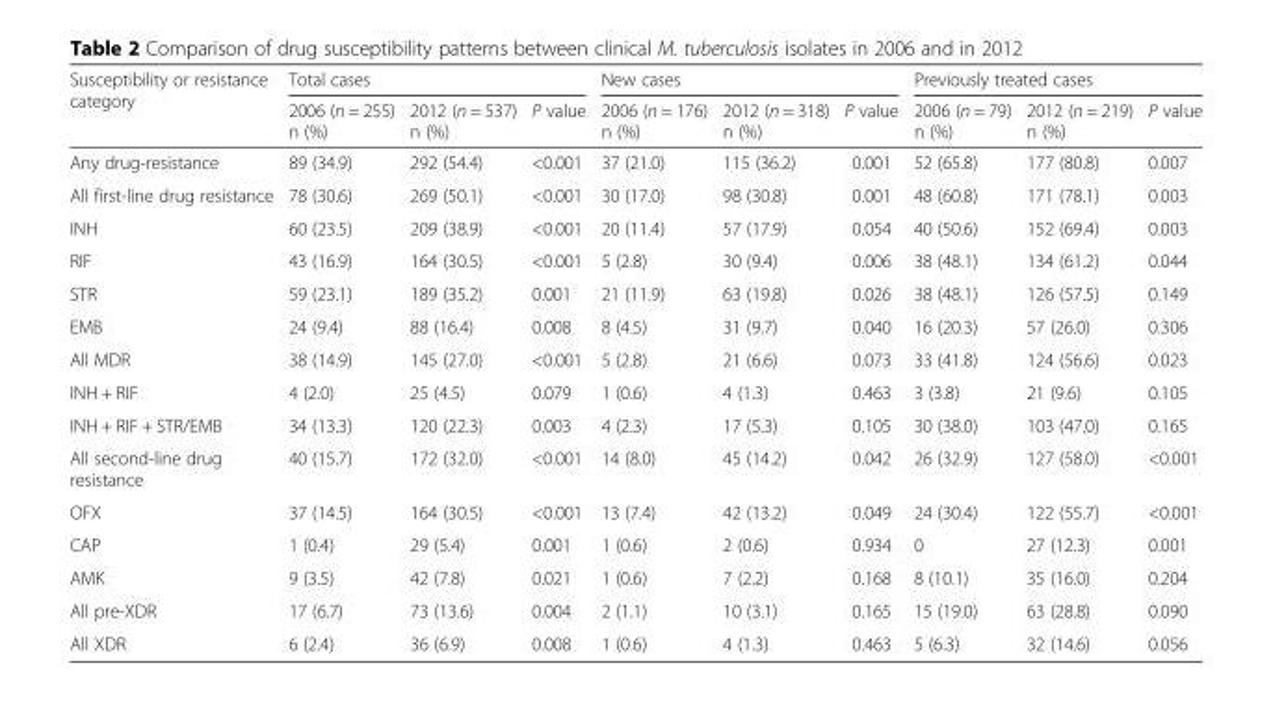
<table><thead><tr><td rowspan="2">Susceptibility or resistance category</td><td colspan="3">Total cases</td><td colspan="3">New cases</td><td colspan="3">Previously treated cases</td></tr><tr><td>2006 (n = 255) n (%)</td><td>2012 (n = 537) n (%)</td><td>P value</td><td>2006 (n = 176) n (%)</td><td>2012 (n = 318) n (%)</td><td>P value</td><td>2006 (n = 79) n (%)</td><td>2012 (n = 219) n (%)</td><td>P value</td></tr></thead><tbody><tr><td>Any drug-resistance</td><td>89 (34.9)</td><td>292 (54.4)</td><td>&lt;0.001</td><td>37 (21.0)</td><td>115 (36.2)</td><td>0.001</td><td>52 (65.8)</td><td>177 (80.8)</td><td>0.007</td></tr><tr><td>All first-line drug resistance</td><td>78 (30.6)</td><td>269 (50.1)</td><td>&lt;0.001</td><td>30 (17.0)</td><td>98 (30.8)</td><td>0.001</td><td>48 (60.8)</td><td>171 (78.1)</td><td>0.003</td></tr><tr><td>INH</td><td>60 (23.5)</td><td>209 (38.9)</td><td>&lt;0.001</td><td>20 (11.4)</td><td>57 (17.9)</td><td>0.054</td><td>40 (50.6)</td><td>152 (69.4)</td><td>0.003</td></tr><tr><td>RIF</td><td>43 (16.9)</td><td>164 (30.5)</td><td>&lt;0.001</td><td>5 (2.8)</td><td>30 (9.4)</td><td>0.006</td><td>38 (48.1)</td><td>134 (61.2)</td><td>0.044</td></tr><tr><td>STR</td><td>59 (23.1)</td><td>189 (35.2)</td><td>0.001</td><td>21 (11.9)</td><td>63 (19.8)</td><td>0.026</td><td>38 (48.1)</td><td>126 (57.5)</td><td>0.149</td></tr><tr><td>EMB</td><td>24 (9.4)</td><td>88 (16.4)</td><td>0.008</td><td>8 (4.5)</td><td>31 (9.7)</td><td>0.040</td><td>16 (20.3)</td><td>57 (26.0)</td><td>0.306</td></tr><tr><td>All MDR</td><td>38 (14.9)</td><td>145 (27.0)</td><td>&lt;0.001</td><td>5 (2.8)</td><td>21 (6.6)</td><td>0.073</td><td>33 (41.8)</td><td>124 (56.6)</td><td>0.023</td></tr><tr><td>INH + RIF</td><td>4 (2.0)</td><td>25 (4.5)</td><td>0.079</td><td>1 (0.6)</td><td>4 (1.3)</td><td>0.463</td><td>3 (3.8)</td><td>21 (9.6)</td><td>0.105</td></tr><tr><td>INH + RIF + STR/EMB</td><td>34 (13.3)</td><td>120 (22.3)</td><td>0.003</td><td>4 (2.3)</td><td>17 (5.3)</td><td>0.105</td><td>30 (38.0)</td><td>103 (47.0)</td><td>0.165</td></tr><tr><td>All second-line drug resistance</td><td>40 (15.7)</td><td>172 (32.0)</td><td>&lt;0.001</td><td>14 (8.0)</td><td>45 (14.2)</td><td>0.042</td><td>26 (32.9)</td><td>127 (58.0)</td><td>&lt;0.001</td></tr><tr><td>OFX</td><td>37 (14.5)</td><td>164 (30.5)</td><td>&lt;0.001</td><td>13 (7.4)</td><td>42 (13.2)</td><td>0.049</td><td>24 (30.4)</td><td>122 (55.7)</td><td>&lt;0.001</td></tr><tr><td>CAP</td><td>1 (0.4)</td><td>29 (5.4)</td><td>0.001</td><td>1 (0.6)</td><td>2 (0.6)</td><td>0.934</td><td>0</td><td>27 (12.3)</td><td>0.001</td></tr><tr><td>AMK</td><td>9 (3.5)</td><td>42 (7.8)</td><td>0.021</td><td>1 (0.6)</td><td>7 (2.2)</td><td>0.168</td><td>8 (10.1)</td><td>35 (16.0)</td><td>0.204</td></tr><tr><td>All pre-XDR</td><td>17 (6.7)</td><td>73 (13.6)</td><td>0.004</td><td>2 (1.1)</td><td>10 (3.1)</td><td>0.165</td><td>15 (19.0)</td><td>63 (28.8)</td><td>0.090</td></tr><tr><td>All XDR</td><td>6 (2.4)</td><td>36 (6.9)</td><td>0.008</td><td>1 (0.6)</td><td>4 (1.3)</td><td>0.463</td><td>5 (6.3)</td><td>32 (14.6)</td><td>0.056</td></tr></tbody></table>